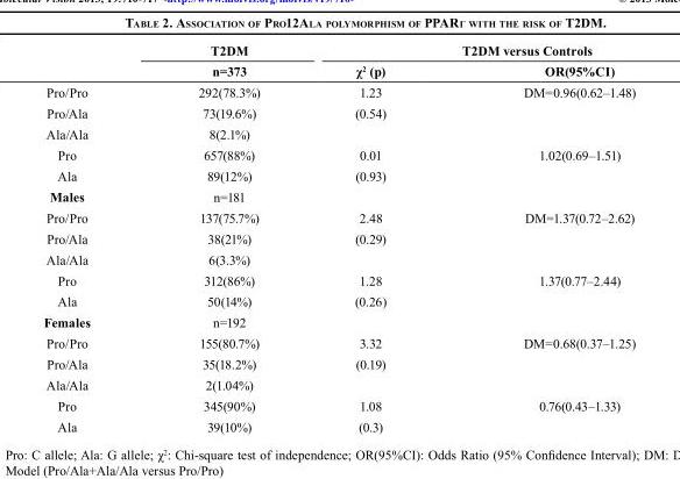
<table><thead><tr><td rowspan="2"></td><td rowspan="2">T2DM n=373</td><td colspan="2">T2DM versus Controls</td></tr><tr><td>χ<sup>2</sup> (p)</td><td>OR(95%CI)</td></tr></thead><tbody><tr><td>Pro/Pro</td><td>292(78.3%)</td><td>1.23</td><td>DM=0.96(0.62–1.48)</td></tr><tr><td>Pro/Ala</td><td>73(19.6%)</td><td>(0.54)</td><td></td></tr><tr><td>Ala/Ala</td><td>8(2.1%)</td><td></td><td></td></tr><tr><td>Pro</td><td>657(88%)</td><td>0.01</td><td>1.02(0.69–1.51)</td></tr><tr><td>Ala</td><td>89(12%)</td><td>(0.93)</td><td></td></tr><tr><td>Males</td><td>n=181</td><td></td><td></td></tr><tr><td>Pro/Pro</td><td>137(75.7%)</td><td>2.48</td><td>DM=1.37(0.72–2.62)</td></tr><tr><td>Pro/Ala</td><td>38(21%)</td><td>(0.29)</td><td></td></tr><tr><td>Ala/Ala</td><td>6(3.3%)</td><td></td><td></td></tr><tr><td>Pro</td><td>312(86%)</td><td>1.28</td><td>1.37(0.77–2.44)</td></tr><tr><td>Ala</td><td>50(14%)</td><td>(0.26)</td><td></td></tr><tr><td>Females</td><td>n=192</td><td></td><td></td></tr><tr><td>Pro/Pro</td><td>155(80.7%)</td><td>3.32</td><td>DM=0.68(0.37–1.25)</td></tr><tr><td>Pro/Ala</td><td>35(18.2%)</td><td>(0.19)</td><td></td></tr><tr><td>Ala/Ala</td><td>2(1.04%)</td><td></td><td></td></tr><tr><td>Pro</td><td>345(90%)</td><td>1.08</td><td>0.76(0.43–1.33)</td></tr><tr><td>Ala</td><td>39(10%)</td><td>(0.3)</td><td></td></tr></tbody></table>